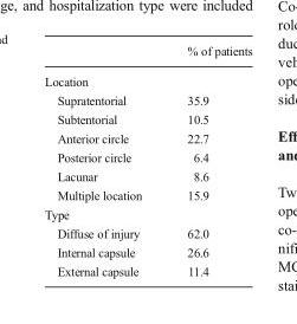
<table><thead><tr><td></td><td>% of patients</td></tr></thead><tbody><tr><td colspan="2">Location</td></tr><tr><td>Supratentorial</td><td>35.9</td></tr><tr><td>Subtentorial</td><td>10.5</td></tr><tr><td>Anterior circle</td><td>22.7</td></tr><tr><td>Posterior circle</td><td>6.4</td></tr><tr><td>Lacunar</td><td>8.6</td></tr><tr><td>Multiple location</td><td>15.9</td></tr><tr><td colspan="2">Type</td></tr><tr><td>Diffuse of injury</td><td>62.0</td></tr><tr><td>Internal capsule</td><td>26.6</td></tr><tr><td>External capsule</td><td>11.4</td></tr></tbody></table>